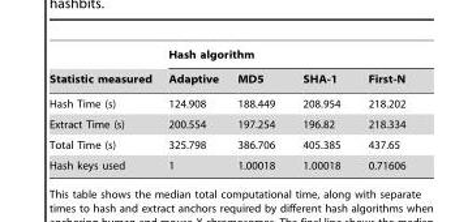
<table><thead><tr><td rowspan="2">Statistic measured</td><td colspan="4">Hash algorithm</td></tr><tr><td>Adaptive</td><td>MD5</td><td>SHA-1</td><td>First-N</td></tr></thead><tbody><tr><td>Hash Time (s)</td><td>124.908</td><td>188.449</td><td>208.954</td><td>218.202</td></tr><tr><td>Extract Time (s)</td><td>200.554</td><td>197.254</td><td>196.82</td><td>218.334</td></tr><tr><td>Total Time (s)</td><td>325.798</td><td>386.706</td><td>405.385</td><td>437.65</td></tr><tr><td>Hash keys used</td><td>1</td><td>1.00018</td><td>1.00018</td><td>0.71606</td></tr></tbody></table>